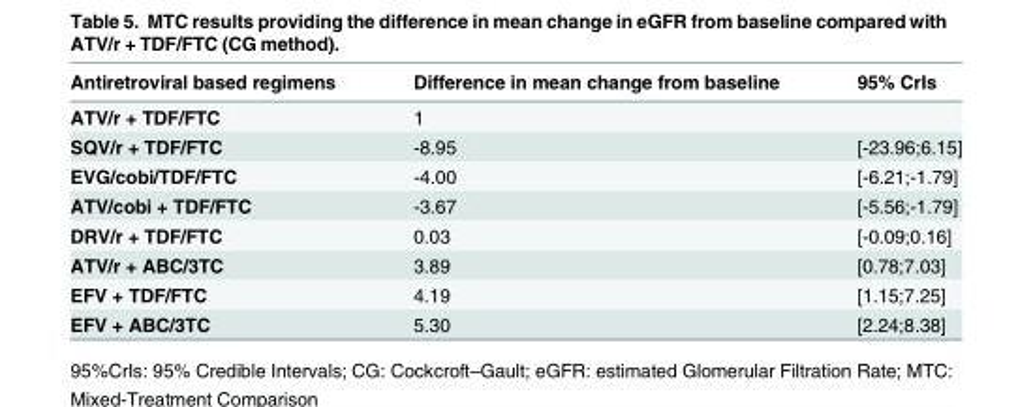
<table><thead><tr><td>Antiretroviral based regimens</td><td>Difference in mean change from baseline</td><td>95% CrIs</td></tr></thead><tbody><tr><td>ATV/r + TDF/FTC</td><td>1</td><td></td></tr><tr><td>SQV/r + TDF/FTC</td><td>-8.95</td><td>[-23.96;6.15]</td></tr><tr><td>EVG/cobi/TDF/FTC</td><td>-4.00</td><td>[-6.21;-1.79]</td></tr><tr><td>ATV/cobi + TDF/FTC</td><td>-3.67</td><td>[-5.56;-1.79]</td></tr><tr><td>DRV/r + TDF/FTC</td><td>0.03</td><td>[-0.09;0.16]</td></tr><tr><td>ATV/r + ABC/3TC</td><td>3.89</td><td>[0.78;7.03]</td></tr><tr><td>EFV + TDF/FTC</td><td>4.19</td><td>[1.15;7.25]</td></tr><tr><td>EFV + ABC/3TC</td><td>5.30</td><td>[2.24;8.38]</td></tr></tbody></table>